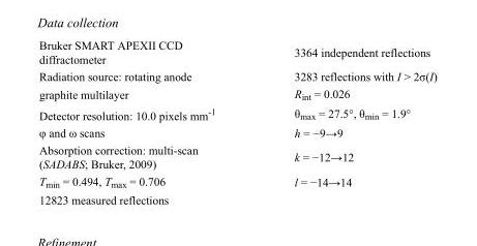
<table><tbody><tr><td>Bruker SMART APEXII CCD diffractometer</td><td>3364 independent reflections</td></tr><tr><td>Radiation source: rotating anode</td><td>3283 reflections with I &gt; 2σ(I)</td></tr><tr><td>graphite multilayer</td><td>R<sub>int</sub> = 0.026</td></tr><tr><td>Detector resolution: 10.0 pixels mm<sup>-1</sup></td><td>θ<sub>max</sub> = 27.5°, θ<sub>min</sub> = 1.9°</td></tr><tr><td>φ and ω scans</td><td>h = −9→9</td></tr><tr><td>Absorption correction: multi-scan (SADABS; Bruker, 2009)</td><td>k = −12→12</td></tr><tr><td>T<sub>min</sub> = 0.494, T<sub>max</sub> = 0.706</td><td>l = −14→14</td></tr><tr><td>12823 measured reflections</td><td></td></tr></tbody></table>